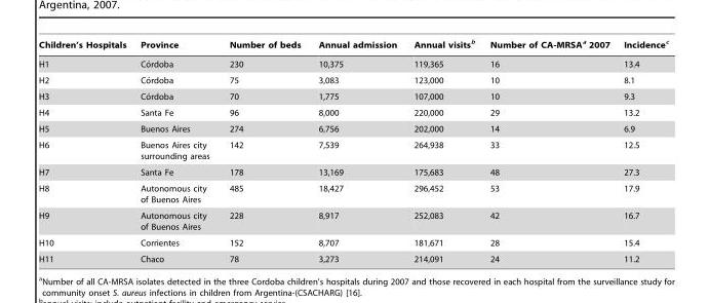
<table><thead><tr><td>Children’s Hospitals</td><td>Province</td><td>Number of beds</td><td>Annual admission</td><td>Annual visits<sup>b</sup></td><td>Number of CA-MRSA<sup>a</sup> 2007</td><td>Incidence<sup>c</sup></td></tr></thead><tbody><tr><td>H1</td><td>Co´rdoba</td><td>230</td><td>10,375</td><td>119,365</td><td>16</td><td>13.4</td></tr><tr><td>H2</td><td>Co´rdoba</td><td>75</td><td>3,083</td><td>123,000</td><td>10</td><td>8.1</td></tr><tr><td>H3</td><td>Co´rdoba</td><td>70</td><td>1,775</td><td>107,000</td><td>10</td><td>9.3</td></tr><tr><td>H4</td><td>Santa Fe</td><td>96</td><td>8,000</td><td>220,000</td><td>29</td><td>13.2</td></tr><tr><td>H5</td><td>Buenos Aires</td><td>274</td><td>6,756</td><td>202,000</td><td>14</td><td>6.9</td></tr><tr><td>H6</td><td>Buenos Aires city surrounding areas</td><td>142</td><td>7,539</td><td>264,938</td><td>33</td><td>12.5</td></tr><tr><td>H7</td><td>Santa Fe</td><td>178</td><td>13,169</td><td>175,683</td><td>48</td><td>27.3</td></tr><tr><td>H8</td><td>Autonomous city of Buenos Aires</td><td>485</td><td>18,427</td><td>296,452</td><td>53</td><td>17.9</td></tr><tr><td>H9</td><td>Autonomous city of Buenos Aires</td><td>228</td><td>8,917</td><td>252,083</td><td>42</td><td>16.7</td></tr><tr><td>H10</td><td>Corrientes</td><td>152</td><td>8,707</td><td>181,671</td><td>28</td><td>15.4</td></tr><tr><td>H11</td><td>Chaco</td><td>78</td><td>3,273</td><td>214,091</td><td>24</td><td>11.2</td></tr></tbody></table>